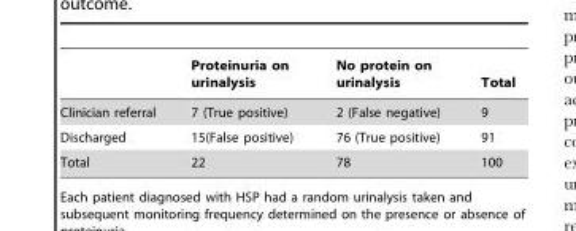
<table><thead><tr><td></td><td>Proteinuria on urinalysis</td><td>No protein on urinalysis</td><td>Total</td></tr></thead><tbody><tr><td>Clinician referral</td><td>7 (True positive)</td><td>2 (False negative)</td><td>9</td></tr><tr><td>Discharged</td><td>15(False positive)</td><td>76 (True positive)</td><td>91</td></tr><tr><td>Total</td><td>22</td><td>78</td><td>100</td></tr></tbody></table>